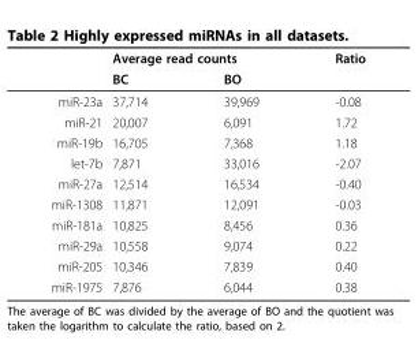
<table><thead><tr><td rowspan="2"></td><td colspan="2">Average read counts</td><td rowspan="2">Ratio</td></tr><tr><td>BC</td><td>BO</td></tr></thead><tbody><tr><td>miR-23a</td><td>37,714</td><td>39,969</td><td>-0.08</td></tr><tr><td>miR-21</td><td>20,007</td><td>6,091</td><td>1.72</td></tr><tr><td>miR-19b</td><td>16,705</td><td>7,368</td><td>1.18</td></tr><tr><td>let-7b</td><td>7,871</td><td>33,016</td><td>-2.07</td></tr><tr><td>miR-27a</td><td>12,514</td><td>16,534</td><td>-0.40</td></tr><tr><td>miR-1308</td><td>11,871</td><td>12,091</td><td>-0.03</td></tr><tr><td>miR-181a</td><td>10,825</td><td>8,456</td><td>0.36</td></tr><tr><td>miR-29a</td><td>10,558</td><td>9,074</td><td>0.22</td></tr><tr><td>miR-205</td><td>10,346</td><td>7,839</td><td>0.40</td></tr><tr><td>miR-1975</td><td>7,876</td><td>6,044</td><td>0.38</td></tr></tbody></table>